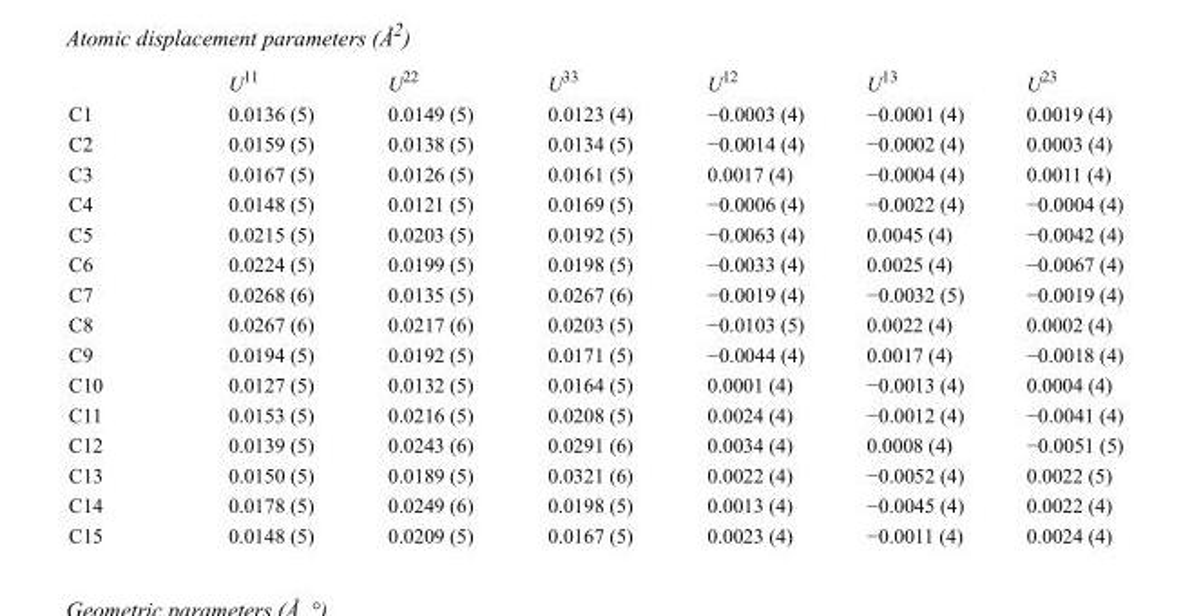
<table><thead><tr><td></td><td>U<sup>11</sup></td><td>U<sup>22</sup></td><td>U<sup>33</sup></td><td>U<sup>12</sup></td><td>U<sup>13</sup></td><td>U<sup>23</sup></td></tr></thead><tbody><tr><td>C1</td><td>0.0136 (5)</td><td>0.0149 (5)</td><td>0.0123 (4)</td><td>−0.0003 (4)</td><td>−0.0001 (4)</td><td>0.0019 (4)</td></tr><tr><td>C2</td><td>0.0159 (5)</td><td>0.0138 (5)</td><td>0.0134 (5)</td><td>−0.0014 (4)</td><td>−0.0002 (4)</td><td>0.0003 (4)</td></tr><tr><td>C3</td><td>0.0167 (5)</td><td>0.0126 (5)</td><td>0.0161 (5)</td><td>0.0017 (4)</td><td>−0.0004 (4)</td><td>0.0011 (4)</td></tr><tr><td>C4</td><td>0.0148 (5)</td><td>0.0121 (5)</td><td>0.0169 (5)</td><td>−0.0006 (4)</td><td>−0.0022 (4)</td><td>−0.0004 (4)</td></tr><tr><td>C5</td><td>0.0215 (5)</td><td>0.0203 (5)</td><td>0.0192 (5)</td><td>−0.0063 (4)</td><td>0.0045 (4)</td><td>−0.0042 (4)</td></tr><tr><td>C6</td><td>0.0224 (5)</td><td>0.0199 (5)</td><td>0.0198 (5)</td><td>−0.0033 (4)</td><td>0.0025 (4)</td><td>−0.0067 (4)</td></tr><tr><td>C7</td><td>0.0268 (6)</td><td>0.0135 (5)</td><td>0.0267 (6)</td><td>−0.0019 (4)</td><td>−0.0032 (5)</td><td>−0.0019 (4)</td></tr><tr><td>C8</td><td>0.0267 (6)</td><td>0.0217 (6)</td><td>0.0203 (5)</td><td>−0.0103 (5)</td><td>0.0022 (4)</td><td>0.0002 (4)</td></tr><tr><td>C9</td><td>0.0194 (5)</td><td>0.0192 (5)</td><td>0.0171 (5)</td><td>−0.0044 (4)</td><td>0.0017 (4)</td><td>−0.0018 (4)</td></tr><tr><td>C10</td><td>0.0127 (5)</td><td>0.0132 (5)</td><td>0.0164 (5)</td><td>0.0001 (4)</td><td>−0.0013 (4)</td><td>0.0004 (4)</td></tr><tr><td>C11</td><td>0.0153 (5)</td><td>0.0216 (5)</td><td>0.0208 (5)</td><td>0.0024 (4)</td><td>−0.0012 (4)</td><td>−0.0041 (4)</td></tr><tr><td>C12</td><td>0.0139 (5)</td><td>0.0243 (6)</td><td>0.0291 (6)</td><td>0.0034 (4)</td><td>0.0008 (4)</td><td>−0.0051 (5)</td></tr><tr><td>C13</td><td>0.0150 (5)</td><td>0.0189 (5)</td><td>0.0321 (6)</td><td>0.0022 (4)</td><td>−0.0052 (4)</td><td>0.0022 (5)</td></tr><tr><td>C14</td><td>0.0178 (5)</td><td>0.0249 (6)</td><td>0.0198 (5)</td><td>0.0013 (4)</td><td>−0.0045 (4)</td><td>0.0022 (4)</td></tr><tr><td>C15</td><td>0.0148 (5)</td><td>0.0209 (5)</td><td>0.0167 (5)</td><td>0.0023 (4)</td><td>−0.0011 (4)</td><td>0.0024 (4)</td></tr></tbody></table>